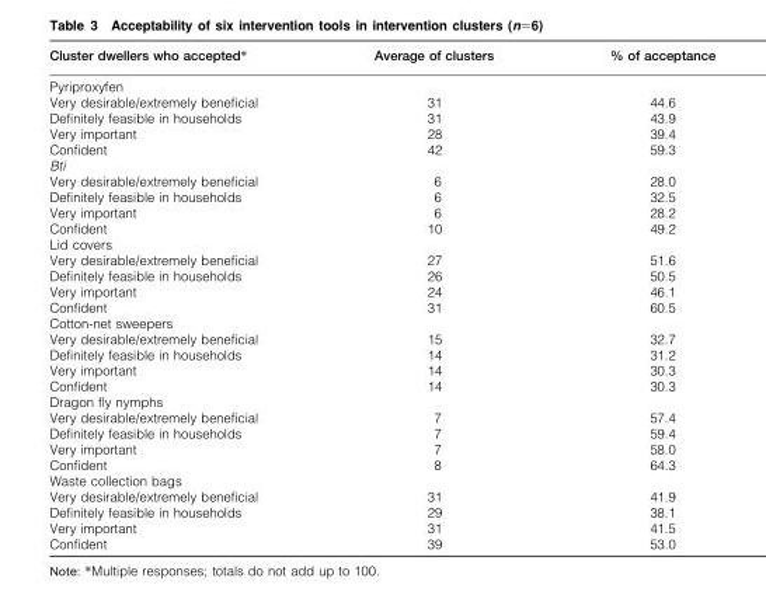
<table><thead><tr><td>Cluster dwellers who accepted*</td><td>Average of clusters</td><td>% of acceptance</td></tr></thead><tbody><tr><td colspan="3">Pyriproxyfen</td></tr><tr><td>Very desirable/extremely beneficial</td><td>31</td><td>44.6</td></tr><tr><td>Definitely feasible in households</td><td>31</td><td>43.9</td></tr><tr><td>Very important</td><td>28</td><td>39.4</td></tr><tr><td>Confident</td><td>42</td><td>59.3</td></tr><tr><td colspan="3">Bti</td></tr><tr><td>Very desirable/extremely beneficial</td><td>6</td><td>28.0</td></tr><tr><td>Definitely feasible in households</td><td>6</td><td>32.5</td></tr><tr><td>Very important</td><td>6</td><td>28.2</td></tr><tr><td>Confident</td><td>10</td><td>49.2</td></tr><tr><td colspan="3">Lid covers</td></tr><tr><td>Very desirable/extremely beneficial</td><td>27</td><td>51.6</td></tr><tr><td>Definitely feasible in households</td><td>26</td><td>50.5</td></tr><tr><td>Very important</td><td>24</td><td>46.1</td></tr><tr><td>Confident</td><td>31</td><td>60.5</td></tr><tr><td colspan="3">Cotton-net sweepers</td></tr><tr><td>Very desirable/extremely beneficial</td><td>15</td><td>32.7</td></tr><tr><td>Definitely feasible in households</td><td>14</td><td>31.2</td></tr><tr><td>Very important</td><td>14</td><td>30.3</td></tr><tr><td>Confident</td><td>14</td><td>30.3</td></tr><tr><td colspan="3">Dragon fly nymphs</td></tr><tr><td>Very desirable/extremely beneficial</td><td>7</td><td>57.4</td></tr><tr><td>Definitely feasible in households</td><td>7</td><td>59.4</td></tr><tr><td>Very important</td><td>7</td><td>58.0</td></tr><tr><td>Confident</td><td>8</td><td>64.3</td></tr><tr><td colspan="3">Waste collection bags</td></tr><tr><td>Very desirable/extremely beneficial</td><td>31</td><td>41.9</td></tr><tr><td>Definitely feasible in households</td><td>29</td><td>38.1</td></tr><tr><td>Very important</td><td>31</td><td>41.5</td></tr><tr><td>Confident</td><td>39</td><td>53.0</td></tr></tbody></table>